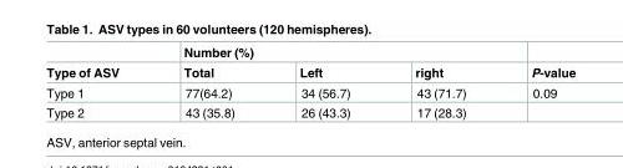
<table><thead><tr><td rowspan="2">Type of ASV</td><td colspan="3">Number (%)</td><td rowspan="2">P-value</td></tr><tr><td>Total</td><td>Left</td><td>right</td></tr></thead><tbody><tr><td>Type 1</td><td>77(64.2)</td><td>34 (56.7)</td><td>43 (71.7)</td><td>0.09</td></tr><tr><td>Type 2</td><td>43 (35.8)</td><td>26 (43.3)</td><td>17 (28.3)</td><td></td></tr></tbody></table>